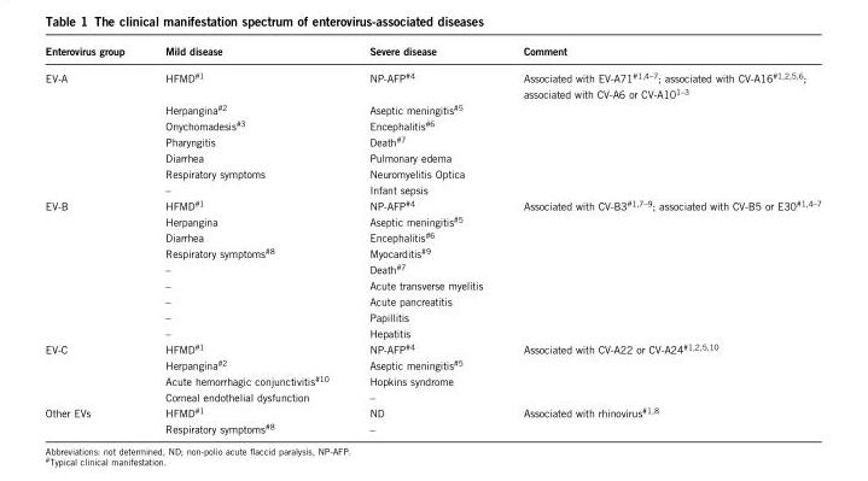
<table><thead><tr><td>Enterovirus group</td><td>Mild disease</td><td>Severe disease</td><td>Comment</td></tr></thead><tbody><tr><td rowspan="7">EV-A</td><td>HFMD#<sup>1</sup></td><td>NP-AFP#<sup>4</sup></td><td>Associated with EV-A71#1,4–7; associated with CV-A16#1,2,5,6; associated with CV-A6 or CV-A101–3</td></tr><tr><td>Herpangina#<sup>2</sup></td><td>Aseptic meningitis#<sup>5</sup></td><td></td></tr><tr><td>Onychomadesis#<sup>3</sup></td><td>Encephalitis#<sup>6</sup></td><td></td></tr><tr><td>Pharyngitis</td><td>Death#<sup>7</sup></td><td></td></tr><tr><td>Diarrhea</td><td>Pulmonary edema</td><td></td></tr><tr><td>Respiratory symptoms</td><td>Neuromyelitis Optica</td><td></td></tr><tr><td>–</td><td>Infant sepsis</td><td></td></tr><tr><td rowspan="9">EV-B</td><td>HFMD#<sup>1</sup></td><td>NP-AFP#<sup>4</sup></td><td>Associated with CV-B3#1,7–9; associated with CV-B5 or E30#1,4–7</td></tr><tr><td>Herpangina</td><td>Aseptic meningitis#<sup>5</sup></td><td></td></tr><tr><td>Diarrhea</td><td>Encephalitis#<sup>6</sup></td><td></td></tr><tr><td>Respiratory symptoms#<sup>8</sup></td><td>Myocarditis#<sup>9</sup></td><td></td></tr><tr><td>–</td><td>Death#<sup>7</sup></td><td></td></tr><tr><td>–</td><td>Acute transverse myelitis</td><td></td></tr><tr><td>–</td><td>Acute pancreatitis</td><td></td></tr><tr><td>–</td><td>Papillitis</td><td></td></tr><tr><td>–</td><td>Hepatitis</td><td></td></tr><tr><td rowspan="4">EV-C</td><td>HFMD#<sup>1</sup></td><td>NP-AFP#<sup>4</sup></td><td>Associated with CV-A22 or CV-A24#<sup>1,2,5,10</sup></td></tr><tr><td>Herpangina#<sup>2</sup></td><td>Aseptic meningitis#<sup>5</sup></td><td></td></tr><tr><td>Acute hemorrhagic conjunctivitis#<sup>10</sup></td><td>Hopkins syndrome</td><td></td></tr><tr><td>Corneal endothelial dysfunction</td><td>–</td><td></td></tr><tr><td rowspan="2">Other EVs</td><td>HFMD#<sup>1</sup></td><td>ND</td><td>Associated with rhinovirus#<sup>1,8</sup></td></tr><tr><td>Respiratory symptoms#<sup>8</sup></td><td>–</td><td></td></tr></tbody></table>